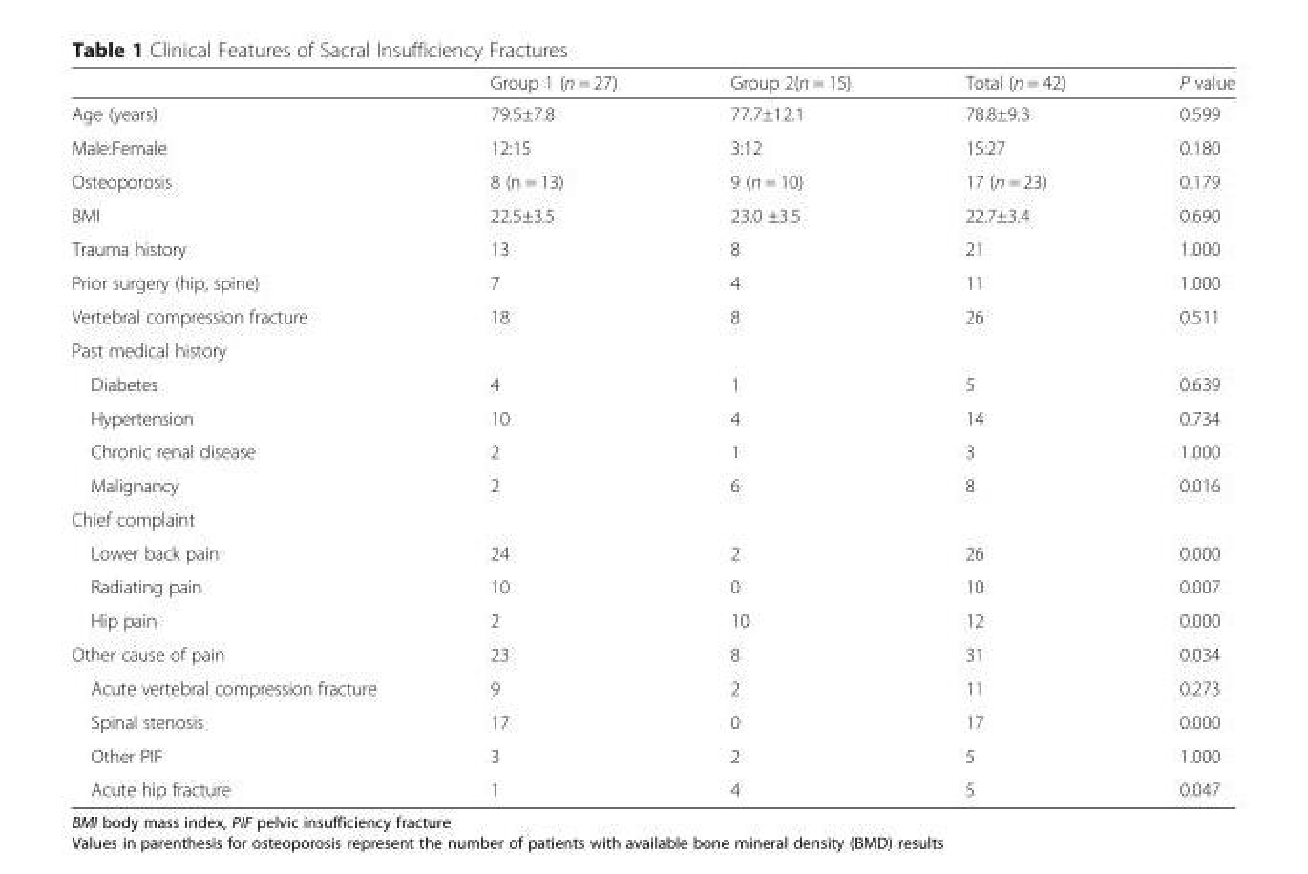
<table><thead><tr><td></td><td>Group 1 (n = 27)</td><td>Group 2(n = 15)</td><td>Total (n = 42)</td><td>P value</td></tr></thead><tbody><tr><td>Age (years)</td><td>79.5±7.8</td><td>77.7±12.1</td><td>78.8±9.3</td><td>0.599</td></tr><tr><td>Male:Female</td><td>12:15</td><td>3:12</td><td>15:27</td><td>0.180</td></tr><tr><td>Osteoporosis</td><td>8 (n = 13)</td><td>9 (n = 10)</td><td>17 (n = 23)</td><td>0.179</td></tr><tr><td>BMI</td><td>22.5±3.5</td><td>23.0 ±3.5</td><td>22.7±3.4</td><td>0.690</td></tr><tr><td>Trauma history</td><td>13</td><td>8</td><td>21</td><td>1.000</td></tr><tr><td>Prior surgery (hip, spine)</td><td>7</td><td>4</td><td>11</td><td>1.000</td></tr><tr><td>Vertebral compression fracture</td><td>18</td><td>8</td><td>26</td><td>0.511</td></tr><tr><td colspan="5">Past medical history</td></tr><tr><td>Diabetes</td><td>4</td><td>1</td><td>5</td><td>0.639</td></tr><tr><td>Hypertension</td><td>10</td><td>4</td><td>14</td><td>0.734</td></tr><tr><td>Chronic renal disease</td><td>2</td><td>1</td><td>3</td><td>1.000</td></tr><tr><td>Malignancy</td><td>2</td><td>6</td><td>8</td><td>0.016</td></tr><tr><td colspan="5">Chief complaint</td></tr><tr><td>Lower back pain</td><td>24</td><td>2</td><td>26</td><td>0.000</td></tr><tr><td>Radiating pain</td><td>10</td><td>0</td><td>10</td><td>0.007</td></tr><tr><td>Hip pain</td><td>2</td><td>10</td><td>12</td><td>0.000</td></tr><tr><td>Other cause of pain</td><td>23</td><td>8</td><td>31</td><td>0.034</td></tr><tr><td>Acute vertebral compression fracture</td><td>9</td><td>2</td><td>11</td><td>0.273</td></tr><tr><td>Spinal stenosis</td><td>17</td><td>0</td><td>17</td><td>0.000</td></tr><tr><td>Other PIF</td><td>3</td><td>2</td><td>5</td><td>1.000</td></tr><tr><td>Acute hip fracture</td><td>1</td><td>4</td><td>5</td><td>0.047</td></tr></tbody></table>